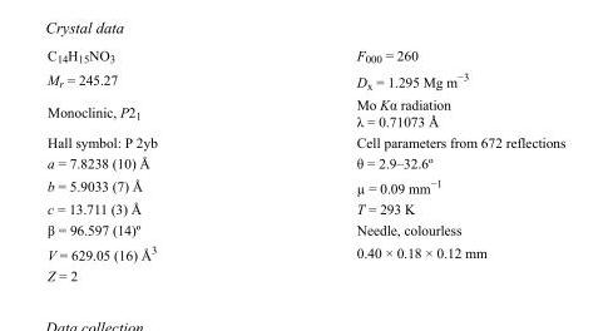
<table><tbody><tr><td>C<sub>14</sub>H<sub>15</sub>NO<sub>3</sub></td><td>F000 = 260</td></tr><tr><td>M<sub>r</sub> = 245.27</td><td>D<sub>x</sub> = 1.295 Mg m<sup>−3</sup></td></tr><tr><td>Monoclinic, P2<sub>1</sub></td><td>Mo Kα radiation λ = 0.71073 Å</td></tr><tr><td>Hall symbol: P 2yb</td><td>Cell parameters from 672 reflections</td></tr><tr><td>a = 7.8238 (10) Å</td><td>θ = 2.9–32.6º</td></tr><tr><td>b = 5.9033 (7) Å</td><td>µ = 0.09 mm<sup>−1</sup></td></tr><tr><td>c = 13.711 (3) Å</td><td>T = 293 K</td></tr><tr><td>β = 96.597 (14)º</td><td>Needle, colourless</td></tr><tr><td>V = 629.05 (16) Å<sup>3</sup></td><td>0.40 × 0.18 × 0.12 mm</td></tr><tr><td>Z = 2</td><td></td></tr></tbody></table>